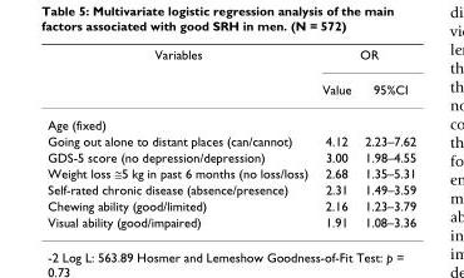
<table><thead><tr><td rowspan="2">Variables</td><td colspan="2">OR</td></tr><tr><td>Value</td><td>95%CI</td></tr></thead><tbody><tr><td colspan="3">Age (fixed)</td></tr><tr><td>Going out alone to distant places (can/cannot)</td><td>4.12</td><td>2.23–7.62</td></tr><tr><td>GDS-5 score (no depression/depression)</td><td>3.00</td><td>1.98–4.55</td></tr><tr><td>Weight loss ≅5 kg in past 6 months (no loss/loss)</td><td>2.68</td><td>1.35–5.31</td></tr><tr><td>Self-rated chronic disease (absence/presence)</td><td>2.31</td><td>1.49–3.59</td></tr><tr><td>Chewing ability (good/limited)</td><td>2.16</td><td>1.23–3.79</td></tr><tr><td>Visual ability (good/impaired)</td><td>1.91</td><td>1.08–3.36</td></tr></tbody></table>